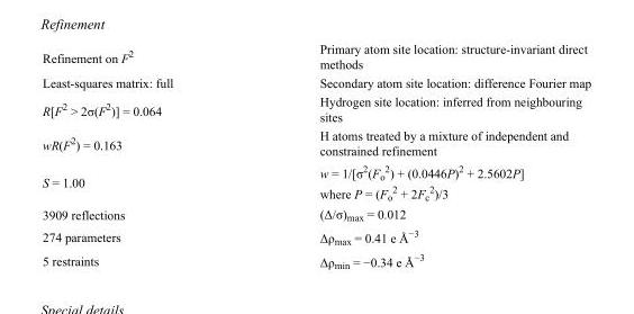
<table><tbody><tr><td>Refinement on F<sup>2</sup></td><td>Primary atom site location: structure-invariant direct methods</td></tr><tr><td>Least-squares matrix: full</td><td>Secondary atom site location: difference Fourier map</td></tr><tr><td>R[F<sup>2</sup> &gt; 2σ(F<sup>2</sup>)] = 0.064</td><td>Hydrogen site location: inferred from neighbouring sites</td></tr><tr><td>wR(F<sup>2</sup>) = 0.163</td><td>H atoms treated by a mixture of independent and constrained refinement</td></tr><tr><td>S = 1.00</td><td>w = 1/[σ<sup>2</sup>(F<sub>o</sub> <sup>2</sup>) + (0.0446P)<sup>2</sup> + 2.5602P] where P = (F<sub>o</sub> <sup>2</sup> + 2F<sub>c</sub> <sup>2</sup>)/3</td></tr><tr><td>3909 reflections</td><td>(Δ/σ)<sub>max</sub> = 0.012</td></tr><tr><td>274 parameters</td><td>Δρ<sub>max</sub> = 0.41 e Å<sup>−3</sup></td></tr><tr><td>5 restraints</td><td>Δρ<sub>min</sub> = −0.34 e Å<sup>−3</sup></td></tr></tbody></table>